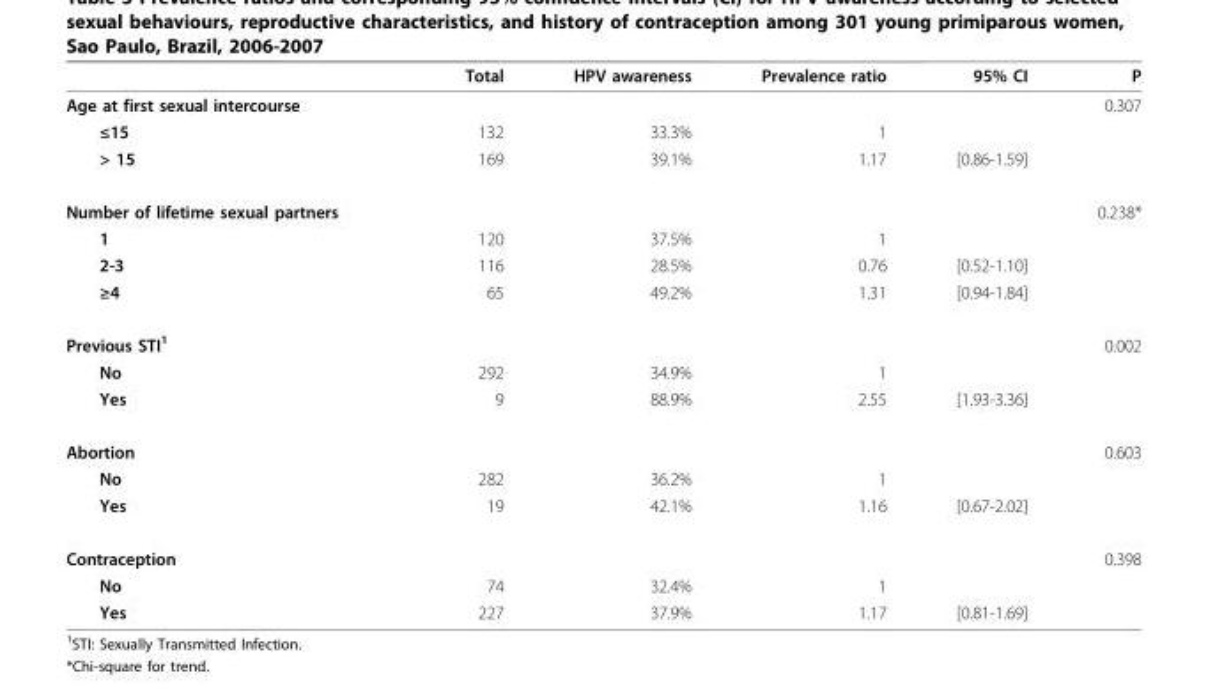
<table><thead><tr><td></td><td>Total</td><td>HPV awareness</td><td>Prevalence ratio</td><td>95% CI</td><td>P</td></tr></thead><tbody><tr><td>Age at first sexual intercourse</td><td></td><td></td><td></td><td></td><td>0.307</td></tr><tr><td>≤15</td><td>132</td><td>33.3%</td><td>1</td><td></td><td></td></tr><tr><td>&gt; 15</td><td>169</td><td>39.1%</td><td>1.17</td><td>[0.86-1.59]</td><td></td></tr><tr><td>Number of lifetime sexual partners</td><td></td><td></td><td></td><td></td><td>0.238*</td></tr><tr><td>1</td><td>120</td><td>37.5%</td><td>1</td><td></td><td></td></tr><tr><td>2-3</td><td>116</td><td>28.5%</td><td>0.76</td><td>[0.52-1.10]</td><td></td></tr><tr><td>≥4</td><td>65</td><td>49.2%</td><td>1.31</td><td>[0.94-1.84]</td><td></td></tr><tr><td>Previous STI<sup>1</sup></td><td></td><td></td><td></td><td></td><td>0.002</td></tr><tr><td>No</td><td>292</td><td>34.9%</td><td>1</td><td></td><td></td></tr><tr><td>Yes</td><td>9</td><td>88.9%</td><td>2.55</td><td>[1.93-3.36]</td><td></td></tr><tr><td>Abortion</td><td></td><td></td><td></td><td></td><td>0.603</td></tr><tr><td>No</td><td>282</td><td>36.2%</td><td>1</td><td></td><td></td></tr><tr><td>Yes</td><td>19</td><td>42.1%</td><td>1.16</td><td>[0.67-2.02]</td><td></td></tr><tr><td>Contraception</td><td></td><td></td><td></td><td></td><td>0.398</td></tr><tr><td>No</td><td>74</td><td>32.4%</td><td>1</td><td></td><td></td></tr><tr><td>Yes</td><td>227</td><td>37.9%</td><td>1.17</td><td>[0.81-1.69]</td><td></td></tr></tbody></table>